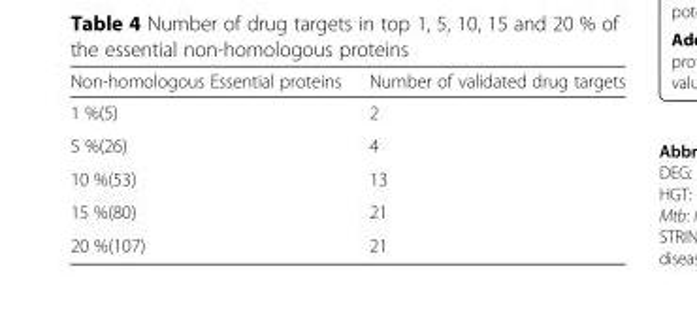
<table><thead><tr><td>Non-homologous Essential proteins</td><td>Number of validated drug targets</td></tr></thead><tbody><tr><td>1 %(5)</td><td>2</td></tr><tr><td>5 %(26)</td><td>4</td></tr><tr><td>10 %(53)</td><td>13</td></tr><tr><td>15 %(80)</td><td>21</td></tr><tr><td>20 %(107)</td><td>21</td></tr></tbody></table>